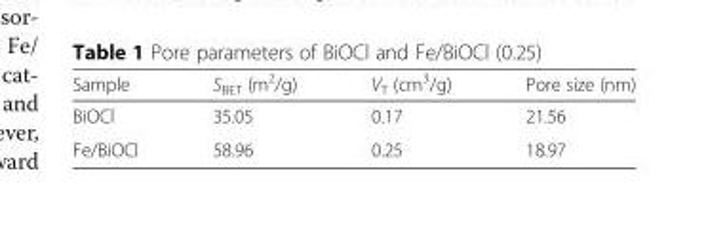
<table><thead><tr><td>Sample</td><td>S<sub>BET</sub> (m<sup>2</sup>/g)</td><td>V<sub>T</sub> (cm<sup>3</sup>/g)</td><td>Pore size (nm)</td></tr></thead><tbody><tr><td>BiOCl</td><td>35.05</td><td>0.17</td><td>21.56</td></tr><tr><td>Fe/BiOCl</td><td>58.96</td><td>0.25</td><td>18.97</td></tr></tbody></table>